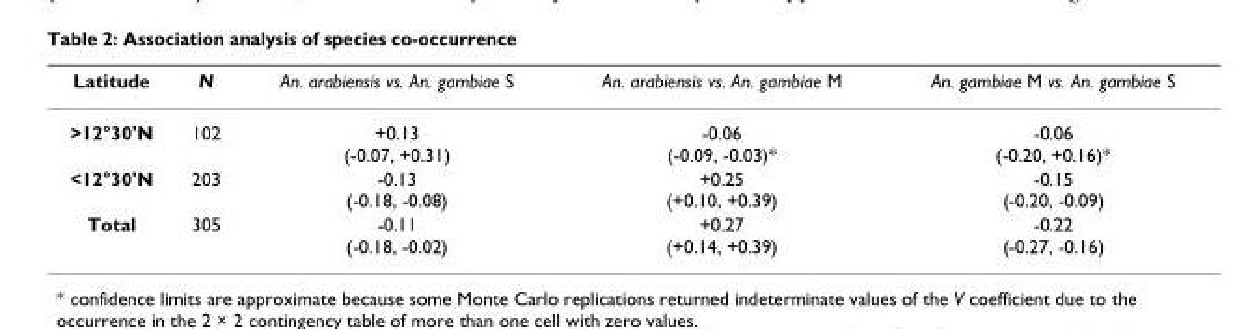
<table><thead><tr><td>Latitude</td><td>N</td><td>An. arabiensis vs. An. gambiae S</td><td>An. arabiensis vs. An. gambiae M</td><td>An. gambiae M vs. An. gambiae S</td></tr></thead><tbody><tr><td>&gt;12°30&#x27;N</td><td>102</td><td>+0.13 (-0.07, +0.31)</td><td>-0.06 (-0.09, -0.03)*</td><td>-0.06 (-0.20, +0.16)*</td></tr><tr><td>&lt;12°30&#x27;N</td><td>203</td><td>-0.13 (-0.18, -0.08)</td><td>+0.25 (+0.10, +0.39)</td><td>-0.15 (-0.20, -0.09)</td></tr><tr><td>Total</td><td>305</td><td>-0.11 (-0.18, -0.02)</td><td>+0.27 (+0.14, +0.39)</td><td>-0.22 (-0.27, -0.16)</td></tr></tbody></table>